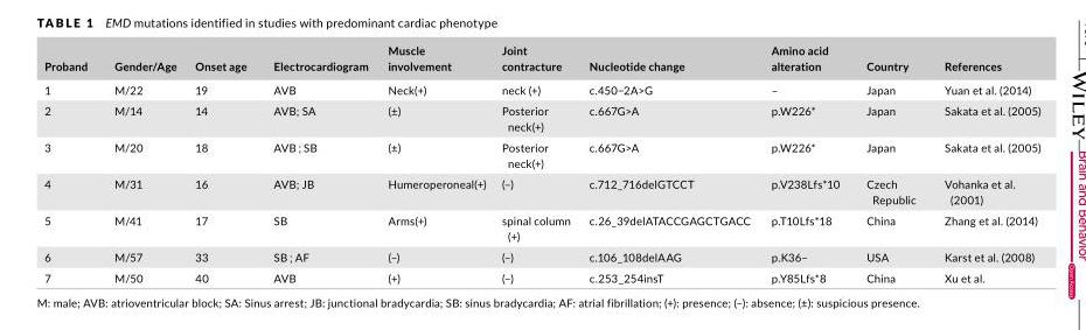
<table><thead><tr><td>Proband</td><td>Gender/Age</td><td>Onset age</td><td>Electrocardiogram</td><td>Muscle involvement</td><td>Joint contracture</td><td>Nucleotide change</td><td>Amino acid alteration</td><td>Country</td><td>References</td></tr></thead><tbody><tr><td>1</td><td>M/22</td><td>19</td><td>AVB</td><td>Neck(+)</td><td>neck (+)</td><td>c.450−2A&gt;G</td><td>–</td><td>Japan</td><td>Yuan et al. (2014)</td></tr><tr><td>2</td><td>M/14</td><td>14</td><td>AVB; SA</td><td>(±)</td><td>Posterior neck(+)</td><td>c.667G&gt;A</td><td>p.W226*</td><td>Japan</td><td>Sakata et al. (2005)</td></tr><tr><td>3</td><td>M/20</td><td>18</td><td>AVB；SB</td><td>(±)</td><td>Posterior neck(+)</td><td>c.667G&gt;A</td><td>p.W226*</td><td>Japan</td><td>Sakata et al. (2005)</td></tr><tr><td>4</td><td>M/31</td><td>16</td><td>AVB; JB</td><td>Humeroperoneal(+)</td><td>(–)</td><td>c.712_716delGTCCT</td><td>p.V238Lfs*10</td><td>Czech Republic</td><td>Vohanka et al. (2001)</td></tr><tr><td>5</td><td>M/41</td><td>17</td><td>SB</td><td>Arms(+)</td><td>spinal column (+)</td><td>c.26_39delATACCGAGCTGACC</td><td>p.T10Lfs*18</td><td>China</td><td>Zhang et al. (2014)</td></tr><tr><td>6</td><td>M/57</td><td>33</td><td>SB；AF</td><td>(–)</td><td>(–)</td><td>c.106_108delAAG</td><td>p.K36–</td><td>USA</td><td>Karst et al. (2008)</td></tr><tr><td>7</td><td>M/50</td><td>40</td><td>AVB</td><td>(+)</td><td>(–)</td><td>c.253_254insT</td><td>p.Y85Lfs*8</td><td>China</td><td>Xu et al.</td></tr></tbody></table>